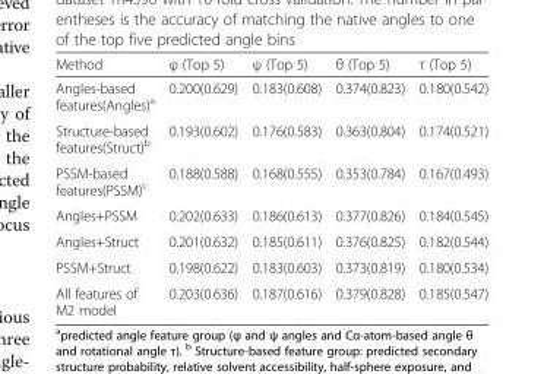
<table><thead><tr><td>Method</td><td>φ (Top 5)</td><td>ψ (Top 5)</td><td>θ (Top 5)</td><td>τ (Top 5)</td></tr></thead><tbody><tr><td>Angles-based features(Angles)<sup>a</sup></td><td>0.200(0.629)</td><td>0.183(0.608)</td><td>0.374(0.823)</td><td>0.180(0.542)</td></tr><tr><td>Structure-based features(Struct)<sup>b</sup></td><td>0.193(0.602)</td><td>0.176(0.583)</td><td>0.363(0.804)</td><td>0.174(0.521)</td></tr><tr><td>PSSM-based features(PSSM)<sup>c</sup></td><td>0.188(0.588)</td><td>0.168(0.555)</td><td>0.353(0.784)</td><td>0.167(0.493)</td></tr><tr><td>Angles+PSSM</td><td>0.202(0.633)</td><td>0.186(0.613)</td><td>0.377(0.826)</td><td>0.184(0.545)</td></tr><tr><td>Angles+Struct</td><td>0.201(0.632)</td><td>0.185(0.611)</td><td>0.376(0.825)</td><td>0.182(0.544)</td></tr><tr><td>PSSM+Struct</td><td>0.198(0.622)</td><td>0.183(0.603)</td><td>0.373(0.819)</td><td>0.180(0.534)</td></tr><tr><td>All features of M2 model</td><td>0.203(0.636)</td><td>0.187(0.616)</td><td>0.379(0.828)</td><td>0.185(0.547)</td></tr></tbody></table>